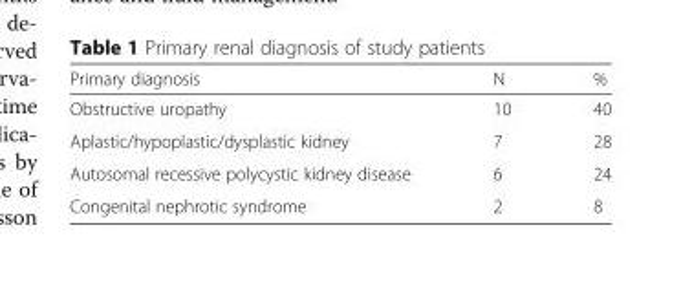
<table><thead><tr><td>Primary diagnosis</td><td>N</td><td>%</td></tr></thead><tbody><tr><td>Obstructive uropathy</td><td>10</td><td>40</td></tr><tr><td>Aplastic/hypoplastic/dysplastic kidney</td><td>7</td><td>28</td></tr><tr><td>Autosomal recessive polycystic kidney disease</td><td>6</td><td>24</td></tr><tr><td>Congenital nephrotic syndrome</td><td>2</td><td>8</td></tr></tbody></table>